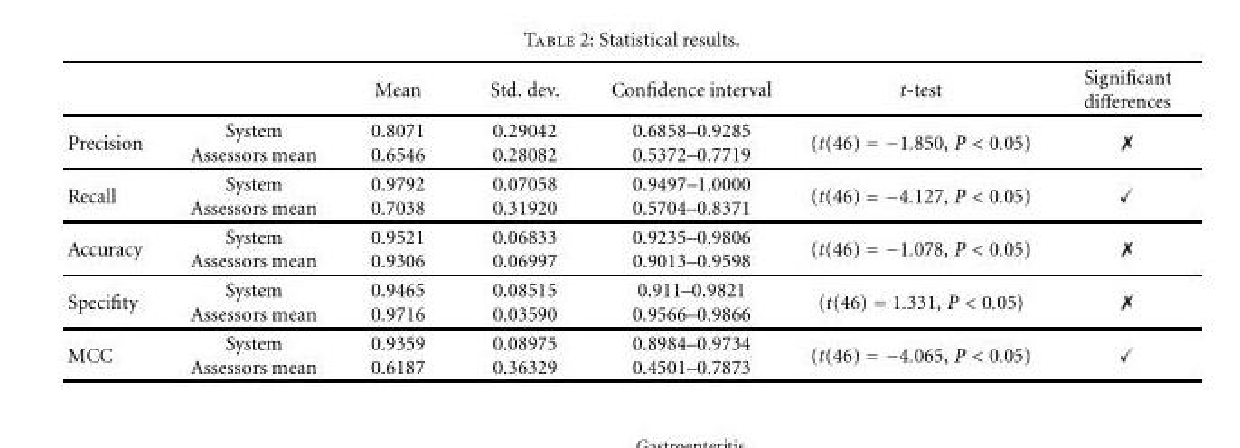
<table><thead><tr><td></td><td></td><td>Mean</td><td>Std. dev.</td><td>Confidence interval</td><td>t-test</td><td>Significant differences</td></tr></thead><tbody><tr><td>Precision</td><td>System Assessors mean</td><td>0.8071 0.6546</td><td>0.29042 0.28082</td><td>0.6858–0.9285 0.5372–0.7719</td><td>(t(46) = −1.850, P &lt; 0.05)</td><td>✗</td></tr><tr><td>Recall</td><td>System Assessors mean</td><td>0.9792 0.7038</td><td>0.07058 0.31920</td><td>0.9497–1.0000 0.5704–0.8371</td><td>(t(46) = −4.127, P &lt; 0.05)</td><td>✓</td></tr><tr><td>Accuracy</td><td>System Assessors mean</td><td>0.9521 0.9306</td><td>0.06833 0.06997</td><td>0.9235–0.9806 0.9013–0.9598</td><td>(t(46) = −1.078, P &lt; 0.05)</td><td>✗</td></tr><tr><td>Specifity</td><td>System Assessors mean</td><td>0.9465 0.9716</td><td>0.08515 0.03590</td><td>0.911–0.9821 0.9566–0.9866</td><td>(t(46) = 1.331, P &lt; 0.05)</td><td>✗</td></tr><tr><td>MCC</td><td>System Assessors mean</td><td>0.9359 0.6187</td><td>0.08975 0.36329</td><td>0.8984–0.9734 0.4501–0.7873</td><td>(t(46) = −4.065, P &lt; 0.05)</td><td>✓</td></tr></tbody></table>